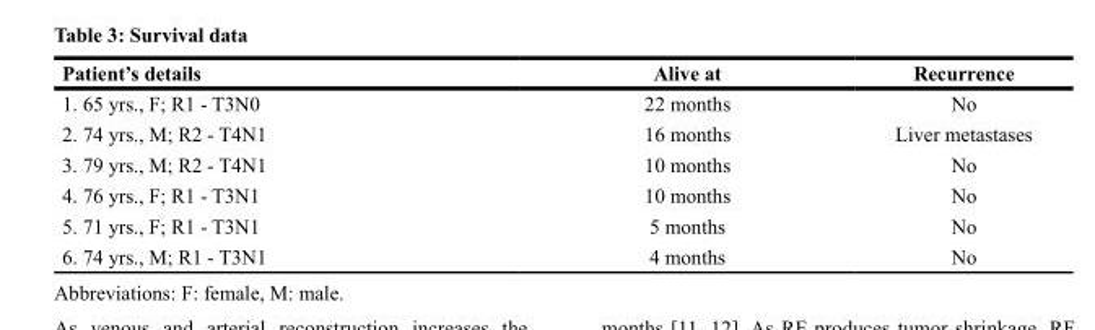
<table><thead><tr><td>Patient’s details</td><td>Alive at</td><td>Recurrence</td></tr></thead><tbody><tr><td>1. 65 yrs., F; R1 - T3N0</td><td>22 months</td><td>No</td></tr><tr><td>2. 74 yrs., M; R2 - T4N1</td><td>16 months</td><td>Liver metastases</td></tr><tr><td>3. 79 yrs., M; R2 - T4N1</td><td>10 months</td><td>No</td></tr><tr><td>4. 76 yrs., F; R1 - T3N1</td><td>10 months</td><td>No</td></tr><tr><td>5. 71 yrs., F; R1 - T3N1</td><td>5 months</td><td>No</td></tr><tr><td>6. 74 yrs., M; R1 - T3N1</td><td>4 months</td><td>No</td></tr></tbody></table>